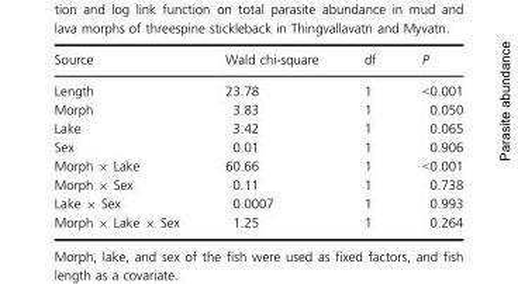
<table><thead><tr><td>Source</td><td>Wald chi-square</td><td>df</td><td>P</td></tr></thead><tbody><tr><td>Length</td><td>23.78</td><td>1</td><td>&lt;0.001</td></tr><tr><td>Morph</td><td>3.83</td><td>1</td><td>0.050</td></tr><tr><td>Lake</td><td>3.42</td><td>1</td><td>0.065</td></tr><tr><td>Sex</td><td>0.01</td><td>1</td><td>0.906</td></tr><tr><td>Morph × Lake</td><td>60.66</td><td>1</td><td>&lt;0.001</td></tr><tr><td>Morph × Sex</td><td>0.11</td><td>1</td><td>0.738</td></tr><tr><td>Lake × Sex</td><td>0.0007</td><td>1</td><td>0.993</td></tr><tr><td>Morph × Lake × Sex</td><td>1.25</td><td>1</td><td>0.264</td></tr></tbody></table>